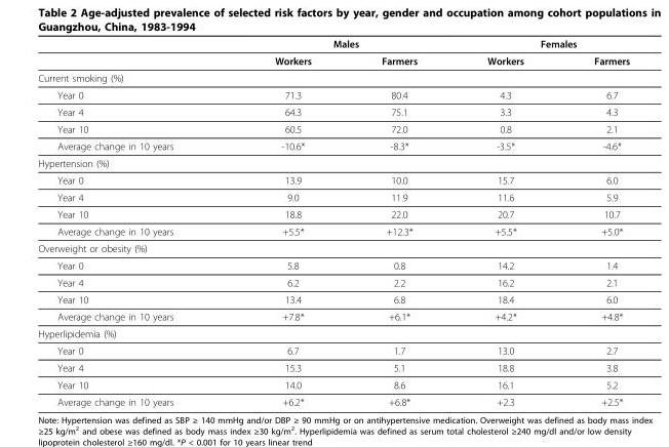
<table><thead><tr><td rowspan="2"></td><td colspan="2">Males</td><td colspan="2">Females</td></tr><tr><td>Workers</td><td>Farmers</td><td>Workers</td><td>Farmers</td></tr></thead><tbody><tr><td colspan="5">Current smoking (%)</td></tr><tr><td>Year 0</td><td>71.3</td><td>80.4</td><td>4.3</td><td>6.7</td></tr><tr><td>Year 4</td><td>64.3</td><td>75.1</td><td>3.3</td><td>4.3</td></tr><tr><td>Year 10</td><td>60.5</td><td>72.0</td><td>0.8</td><td>2.1</td></tr><tr><td>Average change in 10 years</td><td>-10.6*</td><td>-8.3*</td><td>-3.5*</td><td>-4.6*</td></tr><tr><td colspan="5">Hypertension (%)</td></tr><tr><td>Year 0</td><td>13.9</td><td>10.0</td><td>15.7</td><td>6.0</td></tr><tr><td>Year 4</td><td>9.0</td><td>11.9</td><td>11.6</td><td>5.9</td></tr><tr><td>Year 10</td><td>18.8</td><td>22.0</td><td>20.7</td><td>10.7</td></tr><tr><td>Average change in 10 years</td><td>+5.5*</td><td>+12.3*</td><td>+5.5*</td><td>+5.0*</td></tr><tr><td colspan="5">Overweight or obesity (%)</td></tr><tr><td>Year 0</td><td>5.8</td><td>0.8</td><td>14.2</td><td>1.4</td></tr><tr><td>Year 4</td><td>6.2</td><td>2.2</td><td>16.2</td><td>2.1</td></tr><tr><td>Year 10</td><td>13.4</td><td>6.8</td><td>18.4</td><td>6.0</td></tr><tr><td>Average change in 10 years</td><td>+7.8*</td><td>+6.1*</td><td>+4.2*</td><td>+4.8*</td></tr><tr><td colspan="5">Hyperlipidemia (%)</td></tr><tr><td>Year 0</td><td>6.7</td><td>1.7</td><td>13.0</td><td>2.7</td></tr><tr><td>Year 4</td><td>15.3</td><td>5.1</td><td>18.8</td><td>3.8</td></tr><tr><td>Year 10</td><td>14.0</td><td>8.6</td><td>16.1</td><td>5.2</td></tr><tr><td>Average change in 10 years</td><td>+6.2*</td><td>+6.8*</td><td>+2.3</td><td>+2.5*</td></tr></tbody></table>